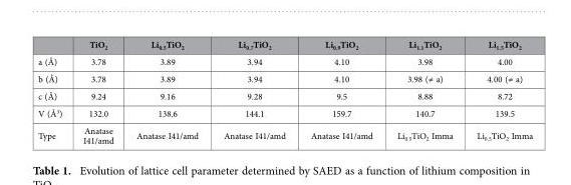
<table><thead><tr><td></td><td>TiO<sub>2</sub></td><td>Li<sub>0.5</sub>TiO<sub>2</sub></td><td>Li<sub>0.7</sub>TiO<sub>2</sub></td><td>Li<sub>0.9</sub>TiO<sub>2</sub></td><td>Li<sub>1.1</sub>TiO<sub>2</sub></td><td>Li<sub>1.5</sub>TiO<sub>2</sub></td></tr></thead><tbody><tr><td>a (Å)</td><td>3.78</td><td>3.89</td><td>3.94</td><td>4.10</td><td>3.98</td><td>4.00</td></tr><tr><td>b (Å)</td><td>3.78</td><td>3.89</td><td>3.94</td><td>4.10</td><td>3.98 (≠ a)</td><td>4.00 (≠ a)</td></tr><tr><td>c (Å)</td><td>9.24</td><td>9.16</td><td>9.28</td><td>9.5</td><td>8.88</td><td>8.72</td></tr><tr><td>V (Å<sup>3</sup>)</td><td>132.0</td><td>138.6</td><td>144.1</td><td>159.7</td><td>140.7</td><td>139.5</td></tr><tr><td>Type</td><td>Anatase I41/amd</td><td>Anatase I41/amd</td><td>Anatase I41/amd</td><td>Anatase I41/amd</td><td>Li<sub>0.5</sub>TiO<sub>2</sub> Imma</td><td>Li<sub>0.5</sub>TiO<sub>2</sub> Imma</td></tr></tbody></table>